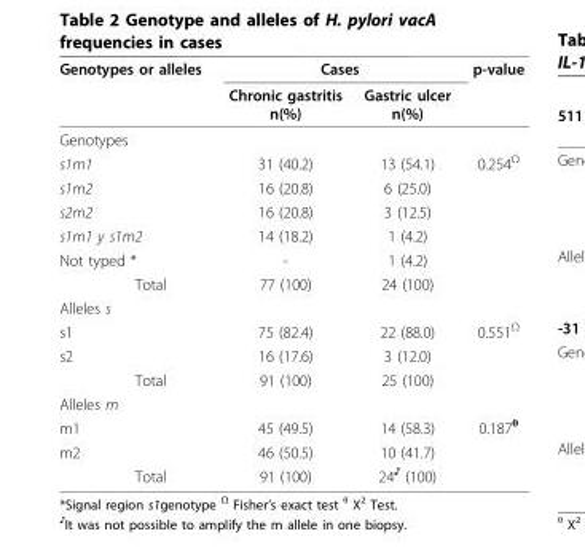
<table><thead><tr><td rowspan="2">Genotypes or alleles</td><td colspan="2">Cases</td><td rowspan="2">p-value</td></tr><tr><td>Chronic gastritis n(%)</td><td>Gastric ulcer n(%)</td></tr></thead><tbody><tr><td colspan="4">Genotypes</td></tr><tr><td>s1m1</td><td>31 (40.2)</td><td>13 (54.1)</td><td>0.254<sup>Ω</sup></td></tr><tr><td>s1m2</td><td>16 (20.8)</td><td>6 (25.0)</td><td></td></tr><tr><td>s2m2</td><td>16 (20.8)</td><td>3 (12.5)</td><td></td></tr><tr><td>s1m1 y s1m2</td><td>14 (18.2)</td><td>1 (4.2)</td><td></td></tr><tr><td>Not typed *</td><td>-</td><td>1 (4.2)</td><td></td></tr><tr><td>Total</td><td>77 (100)</td><td>24 (100)</td><td></td></tr><tr><td colspan="4">Alleles s</td></tr><tr><td>s1</td><td>75 (82.4)</td><td>22 (88.0)</td><td>0.551<sup>Ω</sup></td></tr><tr><td>s2</td><td>16 (17.6)</td><td>3 (12.0)</td><td></td></tr><tr><td>Total</td><td>91 (100)</td><td>25 (100)</td><td></td></tr><tr><td colspan="4">Alleles m</td></tr><tr><td>m1</td><td>45 (49.5)</td><td>14 (58.3)</td><td>0.187<sup>θ</sup></td></tr><tr><td>m2</td><td>46 (50.5)</td><td>10 (41.7)</td><td></td></tr><tr><td>Total</td><td>91 (100)</td><td>24<sup>♪</sup> (100)</td><td></td></tr></tbody></table>